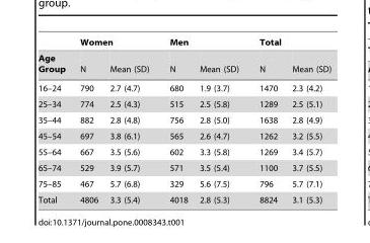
<table><thead><tr><td rowspan="2">Age Group</td><td colspan="2">Women</td><td colspan="2">Men</td><td colspan="2">Total</td></tr><tr><td>N</td><td>Mean (SD)</td><td>N</td><td>Mean (SD)</td><td>N</td><td>Mean (SD)</td></tr></thead><tbody><tr><td>16–24</td><td>790</td><td>2.7 (4.7)</td><td>680</td><td>1.9 (3.7)</td><td>1470</td><td>2.3 (4.2)</td></tr><tr><td>25–34</td><td>774</td><td>2.5 (4.3)</td><td>515</td><td>2.5 (5.8)</td><td>1289</td><td>2.5 (5.1)</td></tr><tr><td>35–44</td><td>882</td><td>2.8 (4.8)</td><td>756</td><td>2.8 (5.0)</td><td>1638</td><td>2.8 (4.9)</td></tr><tr><td>45–54</td><td>697</td><td>3.8 (6.1)</td><td>565</td><td>2.6 (4.7)</td><td>1262</td><td>3.2 (5.5)</td></tr><tr><td>55–64</td><td>667</td><td>3.5 (5.6)</td><td>602</td><td>3.3 (5.8)</td><td>1269</td><td>3.4 (5.7)</td></tr><tr><td>65–74</td><td>529</td><td>3.9 (5.7)</td><td>571</td><td>3.5 (5.4)</td><td>1100</td><td>3.7 (5.5)</td></tr><tr><td>75–85</td><td>467</td><td>5.7 (6.8)</td><td>329</td><td>5.6 (7.5)</td><td>796</td><td>5.7 (7.1)</td></tr><tr><td>Total</td><td>4806</td><td>3.3 (5.4)</td><td>4018</td><td>2.8 (5.3)</td><td>8824</td><td>3.1 (5.3)</td></tr></tbody></table>